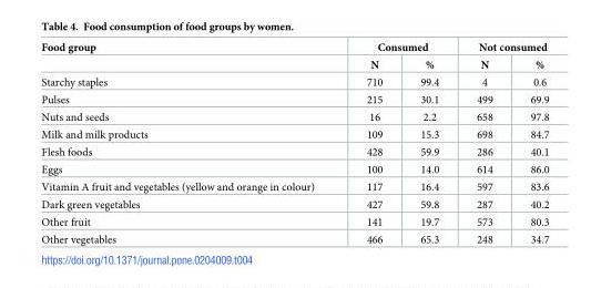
<table><thead><tr><td rowspan="2">Food group</td><td colspan="2">Consumed</td><td colspan="2">Not consumed</td></tr><tr><td>N</td><td>%</td><td>N</td><td>%</td></tr></thead><tbody><tr><td>Starchy staples</td><td>710</td><td>99.4</td><td>4</td><td>0.6</td></tr><tr><td>Pulses</td><td>215</td><td>30.1</td><td>499</td><td>69.9</td></tr><tr><td>Nuts and seeds</td><td>16</td><td>2.2</td><td>658</td><td>97.8</td></tr><tr><td>Milk and milk products</td><td>109</td><td>15.3</td><td>698</td><td>84.7</td></tr><tr><td>Flesh foods</td><td>428</td><td>59.9</td><td>286</td><td>40.1</td></tr><tr><td>Eggs</td><td>100</td><td>14.0</td><td>614</td><td>86.0</td></tr><tr><td>Vitamin A fruit and vegetables (yellow and orange in colour)</td><td>117</td><td>16.4</td><td>597</td><td>83.6</td></tr><tr><td>Dark green vegetables</td><td>427</td><td>59.8</td><td>287</td><td>40.2</td></tr><tr><td>Other fruit</td><td>141</td><td>19.7</td><td>573</td><td>80.3</td></tr><tr><td>Other vegetables</td><td>466</td><td>65.3</td><td>248</td><td>34.7</td></tr></tbody></table>